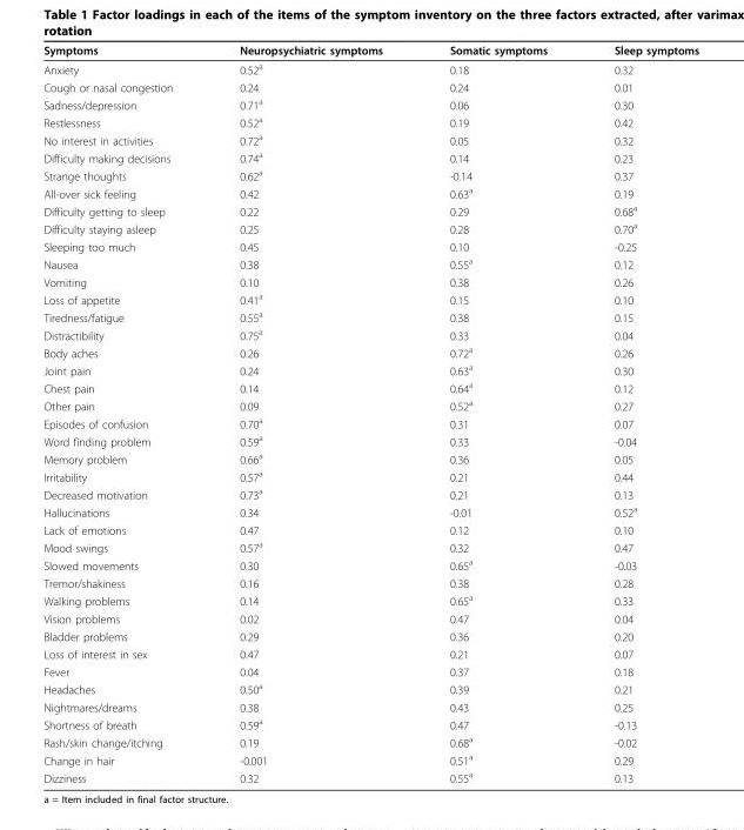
<table><thead><tr><td>Symptoms</td><td>Neuropsychiatric symptoms</td><td>Somatic symptoms</td><td>Sleep symptoms</td></tr></thead><tbody><tr><td>Anxiety</td><td>0.52<sup>a</sup></td><td>0.18</td><td>0.32</td></tr><tr><td>Cough or nasal congestion</td><td>0.24</td><td>0.24</td><td>0.01</td></tr><tr><td>Sadness/depression</td><td>0.71<sup>a</sup></td><td>0.06</td><td>0.30</td></tr><tr><td>Restlessness</td><td>0.52<sup>a</sup></td><td>0.19</td><td>0.42</td></tr><tr><td>No interest in activities</td><td>0.72<sup>a</sup></td><td>0.05</td><td>0.32</td></tr><tr><td>Difficulty making decisions</td><td>0.74<sup>a</sup></td><td>0.14</td><td>0.23</td></tr><tr><td>Strange thoughts</td><td>0.62<sup>a</sup></td><td>-0.14</td><td>0.37</td></tr><tr><td>All-over sick feeling</td><td>0.42</td><td>0.63<sup>a</sup></td><td>0.19</td></tr><tr><td>Difficulty getting to sleep</td><td>0.22</td><td>0.29</td><td>0.68<sup>a</sup></td></tr><tr><td>Difficulty staying asleep</td><td>0.25</td><td>0.28</td><td>0.70<sup>a</sup></td></tr><tr><td>Sleeping too much</td><td>0.45</td><td>0.10</td><td>-0.25</td></tr><tr><td>Nausea</td><td>0.38</td><td>0.55<sup>a</sup></td><td>0.12</td></tr><tr><td>Vomiting</td><td>0.10</td><td>0.38</td><td>0.26</td></tr><tr><td>Loss of appetite</td><td>0.41<sup>a</sup></td><td>0.15</td><td>0.10</td></tr><tr><td>Tiredness/fatigue</td><td>0.55<sup>a</sup></td><td>0.38</td><td>0.15</td></tr><tr><td>Distractibility</td><td>0.75<sup>a</sup></td><td>0.33</td><td>0.04</td></tr><tr><td>Body aches</td><td>0.26</td><td>0.72<sup>a</sup></td><td>0.26</td></tr><tr><td>Joint pain</td><td>0.24</td><td>0.63<sup>a</sup></td><td>0.30</td></tr><tr><td>Chest pain</td><td>0.14</td><td>0.64<sup>a</sup></td><td>0.12</td></tr><tr><td>Other pain</td><td>0.09</td><td>0.52<sup>a</sup></td><td>0.27</td></tr><tr><td>Episodes of confusion</td><td>0.70<sup>a</sup></td><td>0.31</td><td>0.07</td></tr><tr><td>Word finding problem</td><td>0.59<sup>a</sup></td><td>0.33</td><td>-0.04</td></tr><tr><td>Memory problem</td><td>0.66<sup>a</sup></td><td>0.36</td><td>0.05</td></tr><tr><td>Irritability</td><td>0.57<sup>a</sup></td><td>0.21</td><td>0.44</td></tr><tr><td>Decreased motivation</td><td>0.73<sup>a</sup></td><td>0.21</td><td>0.13</td></tr><tr><td>Hallucinations</td><td>0.34</td><td>-0.01</td><td>0.52<sup>a</sup></td></tr><tr><td>Lack of emotions</td><td>0.47</td><td>0.12</td><td>0.10</td></tr><tr><td>Mood swings</td><td>0.57<sup>a</sup></td><td>0.32</td><td>0.47</td></tr><tr><td>Slowed movements</td><td>0.30</td><td>0.65<sup>a</sup></td><td>-0.03</td></tr><tr><td>Tremor/shakiness</td><td>0.16</td><td>0.38</td><td>0.28</td></tr><tr><td>Walking problems</td><td>0.14</td><td>0.65<sup>a</sup></td><td>0.33</td></tr><tr><td>Vision problems</td><td>0.02</td><td>0.47</td><td>0.04</td></tr><tr><td>Bladder problems</td><td>0.29</td><td>0.36</td><td>0.20</td></tr><tr><td>Loss of interest in sex</td><td>0.47</td><td>0.21</td><td>0.07</td></tr><tr><td>Fever</td><td>0.04</td><td>0.37</td><td>0.18</td></tr><tr><td>Headaches</td><td>0.50<sup>a</sup></td><td>0.39</td><td>0.21</td></tr><tr><td>Nightmares/dreams</td><td>0.38</td><td>0.43</td><td>0.25</td></tr><tr><td>Shortness of breath</td><td>0.59<sup>a</sup></td><td>0.47</td><td>-0.13</td></tr><tr><td>Rash/skin change/itching</td><td>0.19</td><td>0.68<sup>a</sup></td><td>-0.02</td></tr><tr><td>Change in hair</td><td>-0.001</td><td>0.51<sup>a</sup></td><td>0.29</td></tr><tr><td>Dizziness</td><td>0.32</td><td>0.55<sup>a</sup></td><td>0.13</td></tr></tbody></table>